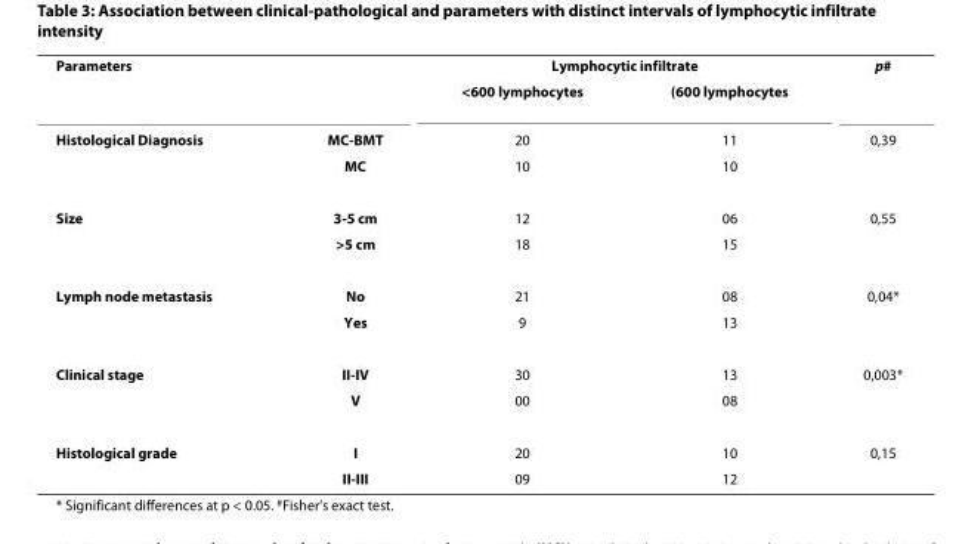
<table><tbody><tr><td rowspan="2">Parameters</td><td></td><td colspan="2">Lymphocytic infiltrate</td><td>p<sup>#</sup></td></tr><tr><td></td><td>&lt;600 lymphocytes</td><td>(600 lymphocytes</td><td></td></tr><tr><td rowspan="2">Histological Diagnosis</td><td>MC-BMT</td><td>20</td><td>11</td><td>0,39</td></tr><tr><td>MC</td><td>10</td><td>10</td><td></td></tr><tr><td rowspan="2">Size</td><td>3-5 cm</td><td>12</td><td>06</td><td>0,55</td></tr><tr><td>&gt;5 cm</td><td>18</td><td>15</td><td></td></tr><tr><td rowspan="2">Lymph node metastasis</td><td>No</td><td>21</td><td>08</td><td>0,04*</td></tr><tr><td>Yes</td><td>9</td><td>13</td><td></td></tr><tr><td rowspan="2">Clinical stage</td><td>II-IV</td><td>30</td><td>13</td><td>0,003*</td></tr><tr><td>V</td><td>00</td><td>08</td><td></td></tr><tr><td rowspan="2">Histological grade</td><td>I</td><td>20</td><td>10</td><td>0,15</td></tr><tr><td>II-III</td><td>09</td><td>12</td><td></td></tr></tbody></table>